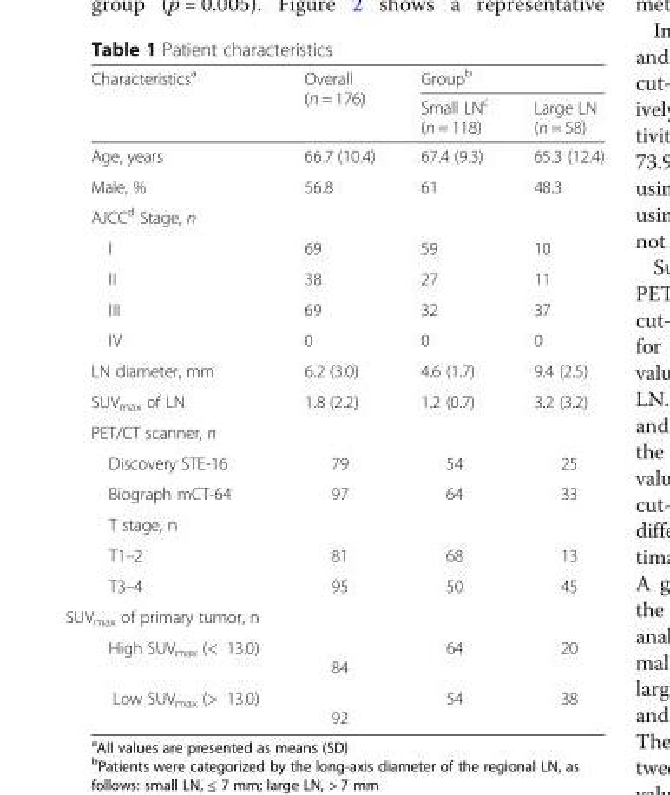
<table><thead><tr><td rowspan="2">Characteristics<sup>a</sup></td><td rowspan="2">Overall (n = 176)</td><td colspan="2">Group<sup>b</sup></td></tr><tr><td>Small LN<sup>c</sup> (n = 118)</td><td>Large LN (n = 58)</td></tr></thead><tbody><tr><td>Age, years</td><td>66.7 (10.4)</td><td>67.4 (9.3)</td><td>65.3 (12.4)</td></tr><tr><td>Male, %</td><td>56.8</td><td>61</td><td>48.3</td></tr><tr><td colspan="4">AJCC<sup>d</sup> Stage, n</td></tr><tr><td>I</td><td>69</td><td>59</td><td>10</td></tr><tr><td>II</td><td>38</td><td>27</td><td>11</td></tr><tr><td>III</td><td>69</td><td>32</td><td>37</td></tr><tr><td>IV</td><td>0</td><td>0</td><td>0</td></tr><tr><td>LN diameter, mm</td><td>6.2 (3.0)</td><td>4.6 (1.7)</td><td>9.4 (2.5)</td></tr><tr><td>SUV<sub>max</sub> of LN</td><td>1.8 (2.2)</td><td>1.2 (0.7)</td><td>3.2 (3.2)</td></tr><tr><td colspan="4">PET/CT scanner, n</td></tr><tr><td>Discovery STE-16</td><td>79</td><td>54</td><td>25</td></tr><tr><td>Biograph mCT-64</td><td>97</td><td>64</td><td>33</td></tr><tr><td colspan="4">T stage, n</td></tr><tr><td>T1–2</td><td>81</td><td>68</td><td>13</td></tr><tr><td>T3–4</td><td>95</td><td>50</td><td>45</td></tr><tr><td colspan="4">SUV<sub>max</sub> of primary tumor, n</td></tr><tr><td>High SUV<sub>max</sub> (&lt; 13.0)</td><td>84</td><td>64</td><td>20</td></tr><tr><td>Low SUV<sub>max</sub> (&gt; 13.0)</td><td>92</td><td>54</td><td>38</td></tr></tbody></table>